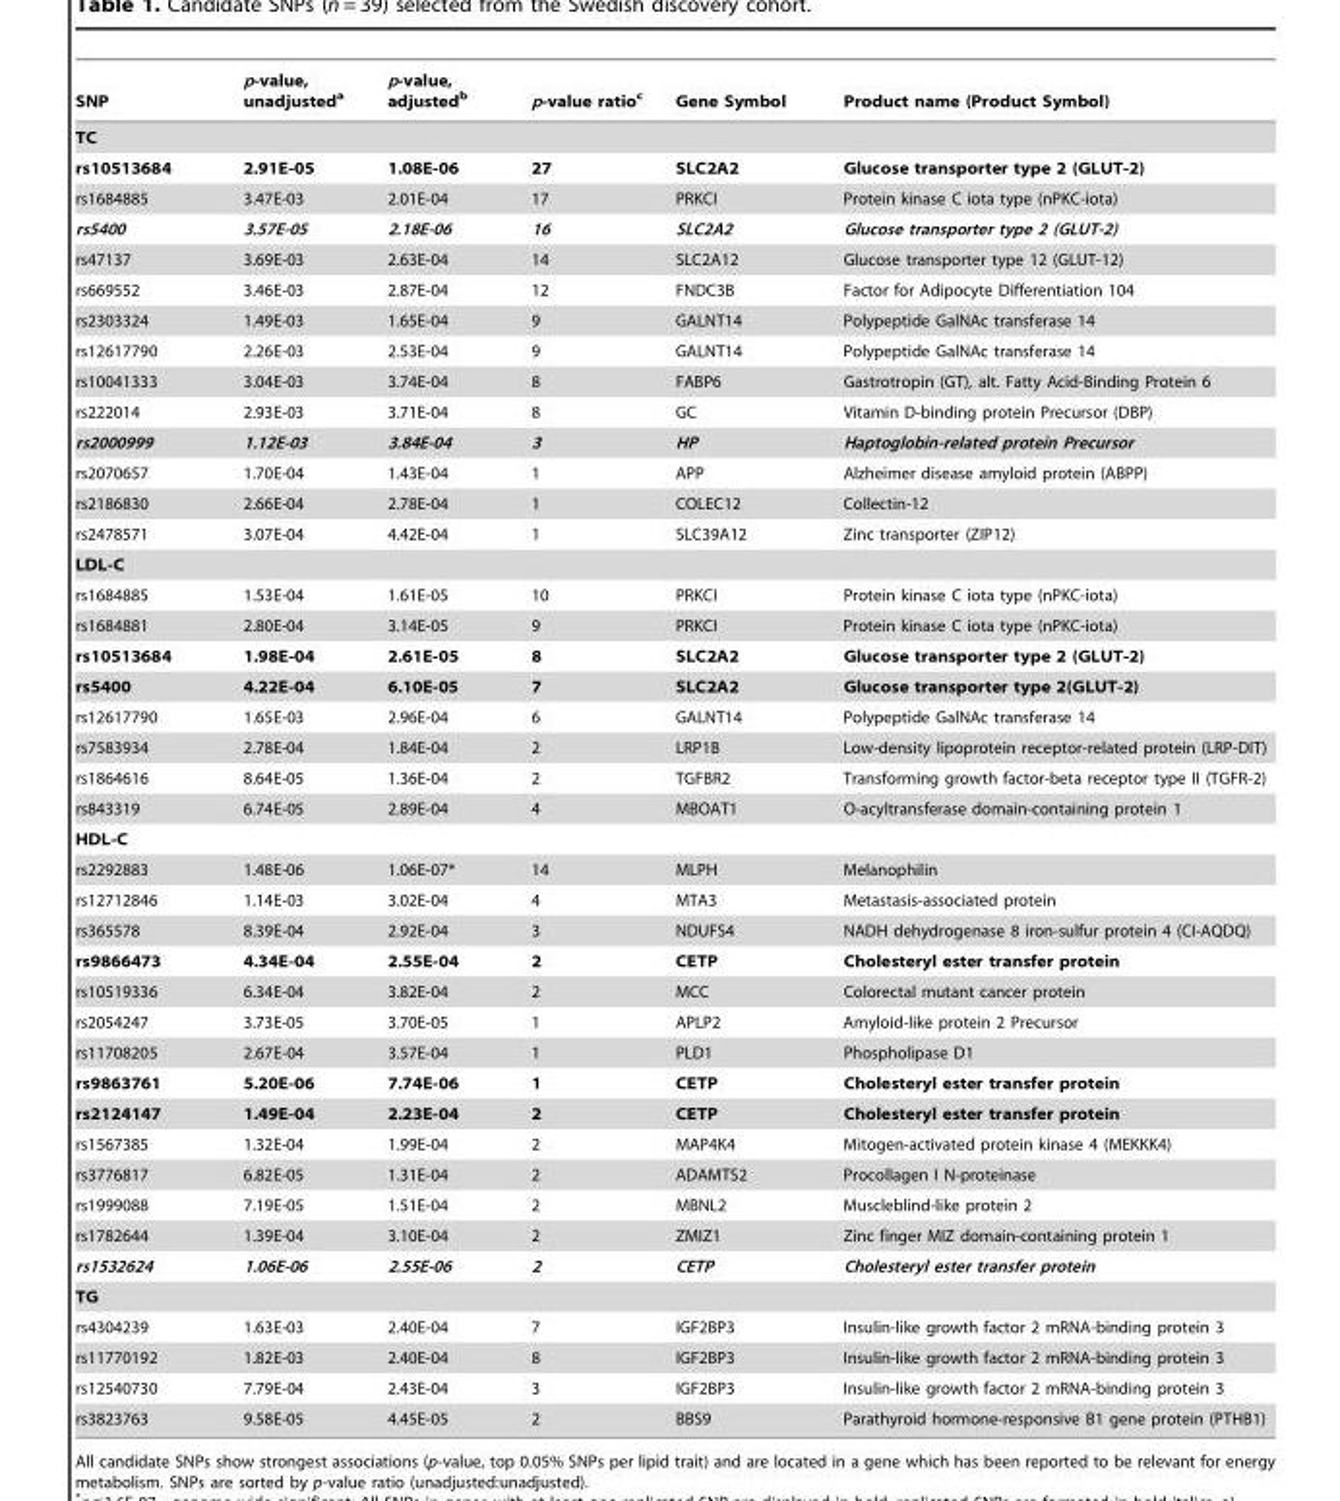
<table><thead><tr><td>SNP</td><td>p-value, unadjusted<sup>a</sup></td><td>p-value, adjusted<sup>b</sup></td><td>p-value ratio<sup>c</sup></td><td>Gene Symbol</td><td>Product name (Product Symbol)</td></tr></thead><tbody><tr><td colspan="6">TC</td></tr><tr><td>rs10513684</td><td>2.91E-05</td><td>1.08E-06</td><td>27</td><td>SLC2A2</td><td>Glucose transporter type 2 (GLUT-2)</td></tr><tr><td>rs1684885</td><td>3.47E-03</td><td>2.01E-04</td><td>17</td><td>PRKCI</td><td>Protein kinase C iota type (nPKC-iota)</td></tr><tr><td>rs5400</td><td>3.57E-05</td><td>2.18E-06</td><td>16</td><td>SLC2A2</td><td>Glucose transporter type 2 (GLUT-2)</td></tr><tr><td>rs47137</td><td>3.69E-03</td><td>2.63E-04</td><td>14</td><td>SLC2A12</td><td>Glucose transporter type 12 (GLUT-12)</td></tr><tr><td>rs669552</td><td>3.46E-03</td><td>2.87E-04</td><td>12</td><td>FNDC3B</td><td>Factor for Adipocyte Differentiation 104</td></tr><tr><td>rs2303324</td><td>1.49E-03</td><td>1.65E-04</td><td>9</td><td>GALNT14</td><td>Polypeptide GalNAc transferase 14</td></tr><tr><td>rs12617790</td><td>2.26E-03</td><td>2.53E-04</td><td>9</td><td>GALNT14</td><td>Polypeptide GalNAc transferase 14</td></tr><tr><td>rs10041333</td><td>3.04E-03</td><td>3.74E-04</td><td>8</td><td>FABP6</td><td>Gastrotropin (GT), alt. Fatty Acid-Binding Protein 6</td></tr><tr><td>rs222014</td><td>2.93E-03</td><td>3.71E-04</td><td>8</td><td>GC</td><td>Vitamin D-binding protein Precursor (DBP)</td></tr><tr><td>rs2000999</td><td>1.12E-03</td><td>3.84E-04</td><td>3</td><td>HP</td><td>Haptoglobin-related protein Precursor</td></tr><tr><td>rs2070657</td><td>1.70E-04</td><td>1.43E-04</td><td>1</td><td>APP</td><td>Alzheimer disease amyloid protein (ABPP)</td></tr><tr><td>rs2186830</td><td>2.66E-04</td><td>2.78E-04</td><td>1</td><td>COLEC12</td><td>Collectin-12</td></tr><tr><td>rs2478571</td><td>3.07E-04</td><td>4.42E-04</td><td>1</td><td>SLC39A12</td><td>Zinc transporter (ZIP12)</td></tr><tr><td colspan="6">LDL-C</td></tr><tr><td>rs1684885</td><td>1.53E-04</td><td>1.61E-05</td><td>10</td><td>PRKCI</td><td>Protein kinase C iota type (nPKC-iota)</td></tr><tr><td>rs1684881</td><td>2.80E-04</td><td>3.14E-05</td><td>9</td><td>PRKCI</td><td>Protein kinase C iota type (nPKC-iota)</td></tr><tr><td>rs10513684</td><td>1.98E-04</td><td>2.61E-05</td><td>8</td><td>SLC2A2</td><td>Glucose transporter type 2 (GLUT-2)</td></tr><tr><td>rs5400</td><td>4.22E-04</td><td>6.10E-05</td><td>7</td><td>SLC2A2</td><td>Glucose transporter type 2(GLUT-2)</td></tr><tr><td>rs12617790</td><td>1.65E-03</td><td>2.96E-04</td><td>6</td><td>GALNT14</td><td>Polypeptide GalNAc transferase 14</td></tr><tr><td>rs7583934</td><td>2.78E-04</td><td>1.84E-04</td><td>2</td><td>LRP1B</td><td>Low-density lipoprotein receptor-related protein (LRP-DIT)</td></tr><tr><td>rs1864616</td><td>8.64E-05</td><td>1.36E-04</td><td>2</td><td>TGFBR2</td><td>Transforming growth factor-beta receptor type II (TGFR-2)</td></tr><tr><td>rs843319</td><td>6.74E-05</td><td>2.89E-04</td><td>4</td><td>MBOAT1</td><td>O-acyltransferase domain-containing protein 1</td></tr><tr><td colspan="6">HDL-C</td></tr><tr><td>rs2292883</td><td>1.48E-06</td><td>1.06E-07*</td><td>14</td><td>MLPH</td><td>Melanophilin</td></tr><tr><td>rs12712846</td><td>1.14E-03</td><td>3.02E-04</td><td>4</td><td>MTA3</td><td>Metastasis-associated protein</td></tr><tr><td>rs365578</td><td>8.39E-04</td><td>2.92E-04</td><td>3</td><td>NDUFS4</td><td>NADH dehydrogenase 8 iron-sulfur protein 4 (CI-AQDQ)</td></tr><tr><td>rs9866473</td><td>4.34E-04</td><td>2.55E-04</td><td>2</td><td>CETP</td><td>Cholesteryl ester transfer protein</td></tr><tr><td>rs10519336</td><td>6.34E-04</td><td>3.82E-04</td><td>2</td><td>MCC</td><td>Colorectal mutant cancer protein</td></tr><tr><td>rs2054247</td><td>3.73E-05</td><td>3.70E-05</td><td>1</td><td>APLP2</td><td>Amyloid-like protein 2 Precursor</td></tr><tr><td>rs11708205</td><td>2.67E-04</td><td>3.57E-04</td><td>1</td><td>PLD1</td><td>Phospholipase D1</td></tr><tr><td>rs9863761</td><td>5.20E-06</td><td>7.74E-06</td><td>1</td><td>CETP</td><td>Cholesteryl ester transfer protein</td></tr><tr><td>rs2124147</td><td>1.49E-04</td><td>2.23E-04</td><td>2</td><td>CETP</td><td>Cholesteryl ester transfer protein</td></tr><tr><td>rs1567385</td><td>1.32E-04</td><td>1.99E-04</td><td>2</td><td>MAP4K4</td><td>Mitogen-activated protein kinase 4 (MEKKK4)</td></tr><tr><td>rs3776817</td><td>6.82E-05</td><td>1.31E-04</td><td>2</td><td>ADAMTS2</td><td>Procollagen I N-proteinase</td></tr><tr><td>rs1999088</td><td>7.19E-05</td><td>1.51E-04</td><td>2</td><td>MBNL2</td><td>Muscleblind-like protein 2</td></tr><tr><td>rs1782644</td><td>1.39E-04</td><td>3.10E-04</td><td>2</td><td>ZMIZ1</td><td>Zinc finger MIZ domain-containing protein 1</td></tr><tr><td>rs1532624</td><td>1.06E-06</td><td>2.55E-06</td><td>2</td><td>CETP</td><td>Cholesteryl ester transfer protein</td></tr><tr><td colspan="6">TG</td></tr><tr><td>rs4304239</td><td>1.63E-03</td><td>2.40E-04</td><td>7</td><td>IGF2BP3</td><td>Insulin-like growth factor 2 mRNA-binding protein 3</td></tr><tr><td>rs11770192</td><td>1.82E-03</td><td>2.40E-04</td><td>8</td><td>IGF2BP3</td><td>Insulin-like growth factor 2 mRNA-binding protein 3</td></tr><tr><td>rs12540730</td><td>7.79E-04</td><td>2.43E-04</td><td>3</td><td>IGF2BP3</td><td>Insulin-like growth factor 2 mRNA-binding protein 3</td></tr><tr><td>rs3823763</td><td>9.58E-05</td><td>4.45E-05</td><td>2</td><td>BBS9</td><td>Parathyroid hormone-responsive B1 gene protein (PTHB1)</td></tr></tbody></table>